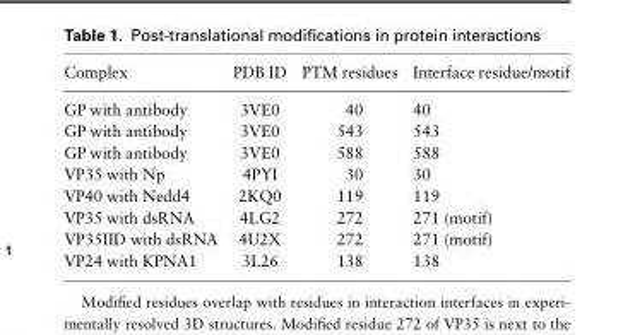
<table><thead><tr><td>Complex</td><td>PDB ID</td><td>PTM residues</td><td>Interface residue/motif</td></tr></thead><tbody><tr><td>GP with antibody</td><td>3VE0</td><td>40</td><td>40</td></tr><tr><td>GP with antibody</td><td>3VE0</td><td>543</td><td>543</td></tr><tr><td>GP with antibody</td><td>3VE0</td><td>588</td><td>588</td></tr><tr><td>VP35 with Np</td><td>4PYI</td><td>30</td><td>30</td></tr><tr><td>VP40 with Nedd4</td><td>2KQ0</td><td>119</td><td>119</td></tr><tr><td>VP35 with dsRNA</td><td>4LG2</td><td>272</td><td>271 (motif)</td></tr><tr><td>VP35IID with dsRNA</td><td>4U2X</td><td>272</td><td>271 (motif)</td></tr><tr><td>VP24 with KPNA1</td><td>3L26</td><td>138</td><td>138</td></tr></tbody></table>